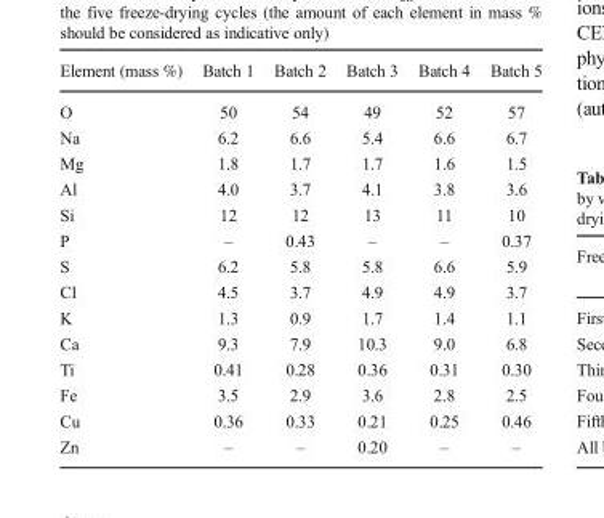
<table><thead><tr><td>Element (mass %)</td><td>Batch 1</td><td>Batch 2</td><td>Batch 3</td><td>Batch 4</td><td>Batch 5</td></tr></thead><tbody><tr><td>O</td><td>50</td><td>54</td><td>49</td><td>52</td><td>57</td></tr><tr><td>Na</td><td>6.2</td><td>6.6</td><td>5.4</td><td>6.6</td><td>6.7</td></tr><tr><td>Mg</td><td>1.8</td><td>1.7</td><td>1.7</td><td>1.6</td><td>1.5</td></tr><tr><td>Al</td><td>4.0</td><td>3.7</td><td>4.1</td><td>3.8</td><td>3.6</td></tr><tr><td>Si</td><td>12</td><td>12</td><td>13</td><td>11</td><td>10</td></tr><tr><td>P</td><td>–</td><td>0.43</td><td>–</td><td>–</td><td>0.37</td></tr><tr><td>S</td><td>6.2</td><td>5.8</td><td>5.8</td><td>6.6</td><td>5.9</td></tr><tr><td>Cl</td><td>4.5</td><td>3.7</td><td>4.9</td><td>4.9</td><td>3.7</td></tr><tr><td>K</td><td>1.3</td><td>0.9</td><td>1.7</td><td>1.4</td><td>1.1</td></tr><tr><td>Ca</td><td>9.3</td><td>7.9</td><td>10.3</td><td>9.0</td><td>6.8</td></tr><tr><td>Ti</td><td>0.41</td><td>0.28</td><td>0.36</td><td>0.31</td><td>0.30</td></tr><tr><td>Fe</td><td>3.5</td><td>2.9</td><td>3.6</td><td>2.8</td><td>2.5</td></tr><tr><td>Cu</td><td>0.36</td><td>0.33</td><td>0.21</td><td>0.25</td><td>0.46</td></tr><tr><td>Zn</td><td>–</td><td>–</td><td>0.20</td><td>–</td><td>–</td></tr></tbody></table>